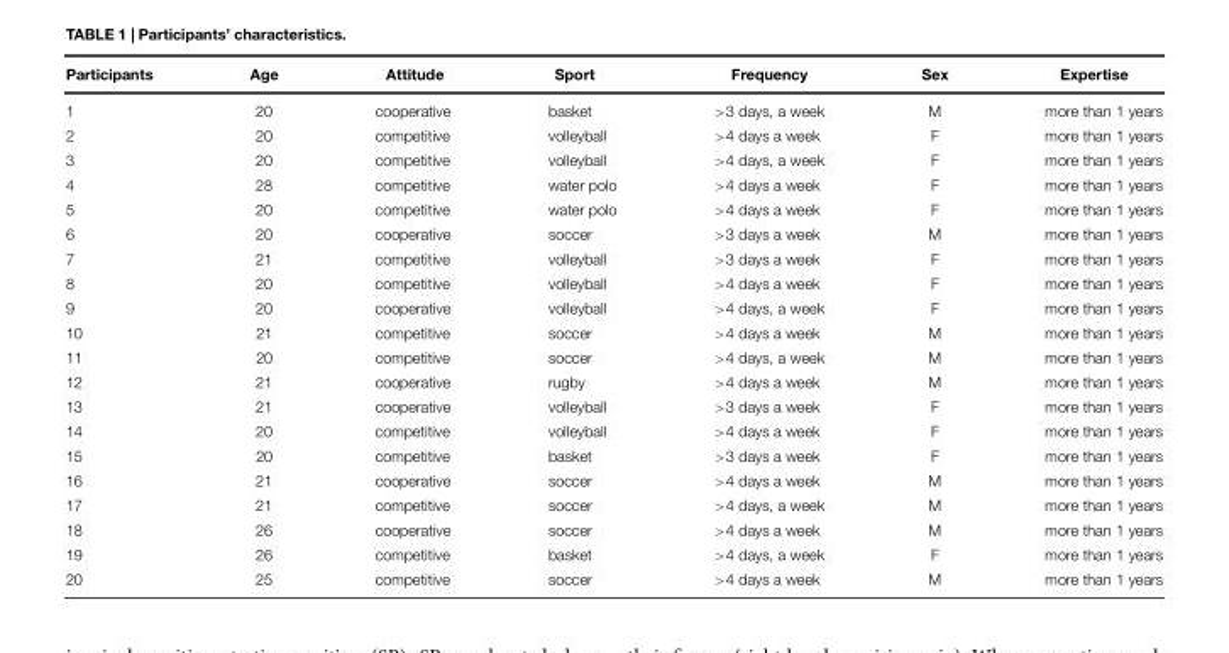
<table><thead><tr><td>Participants</td><td>Age</td><td>Attitude</td><td>Sport</td><td>Frequency</td><td>Sex</td><td>Expertise</td></tr></thead><tbody><tr><td>1</td><td>20</td><td>cooperative</td><td>basket</td><td>&gt;3 days, a week</td><td>M</td><td>more than 1 years</td></tr><tr><td>2</td><td>20</td><td>competitive</td><td>volleyball</td><td>&gt;4 days a week</td><td>F</td><td>more than 1 years</td></tr><tr><td>3</td><td>20</td><td>competitive</td><td>volleyball</td><td>&gt;4 days, a week</td><td>F</td><td>more than 1 years</td></tr><tr><td>4</td><td>28</td><td>competitive</td><td>water polo</td><td>&gt;4 days a week</td><td>F</td><td>more than 1 years</td></tr><tr><td>5</td><td>20</td><td>competitive</td><td>water polo</td><td>&gt;4 days a week</td><td>F</td><td>more than 1 years</td></tr><tr><td>6</td><td>20</td><td>cooperative</td><td>soccer</td><td>&gt;3 days a week</td><td>M</td><td>more than 1 years</td></tr><tr><td>7</td><td>21</td><td>competitive</td><td>volleyball</td><td>&gt;3 days a week</td><td>F</td><td>more than 1 years</td></tr><tr><td>8</td><td>20</td><td>competitive</td><td>volleyball</td><td>&gt;4 days a week</td><td>F</td><td>more than 1 years</td></tr><tr><td>9</td><td>20</td><td>cooperative</td><td>volleyball</td><td>&gt;4 days, a week</td><td>F</td><td>more than 1 years</td></tr><tr><td>10</td><td>21</td><td>competitive</td><td>soccer</td><td>&gt;4 days a week</td><td>M</td><td>more than 1 years</td></tr><tr><td>11</td><td>20</td><td>competitive</td><td>soccer</td><td>&gt;4 days, a week</td><td>M</td><td>more than 1 years</td></tr><tr><td>12</td><td>21</td><td>cooperative</td><td>rugby</td><td>&gt;4 days a week</td><td>M</td><td>more than 1 years</td></tr><tr><td>13</td><td>21</td><td>cooperative</td><td>volleyball</td><td>&gt;3 days a week</td><td>F</td><td>more than 1 years</td></tr><tr><td>14</td><td>20</td><td>competitive</td><td>volleyball</td><td>&gt;4 days a week</td><td>F</td><td>more than 1 years</td></tr><tr><td>15</td><td>20</td><td>competitive</td><td>basket</td><td>&gt;3 days a week</td><td>F</td><td>more than 1 years</td></tr><tr><td>16</td><td>21</td><td>cooperative</td><td>soccer</td><td>&gt;4 days a week</td><td>M</td><td>more than 1 years</td></tr><tr><td>17</td><td>21</td><td>competitive</td><td>soccer</td><td>&gt;4 days, a week</td><td>M</td><td>more than 1 years</td></tr><tr><td>18</td><td>26</td><td>cooperative</td><td>soccer</td><td>&gt;4 days a week</td><td>M</td><td>more than 1 years</td></tr><tr><td>19</td><td>26</td><td>competitive</td><td>basket</td><td>&gt;4 days, a week</td><td>F</td><td>more than 1 years</td></tr><tr><td>20</td><td>25</td><td>competitive</td><td>soccer</td><td>&gt;4 days a week</td><td>M</td><td>more than 1 years</td></tr></tbody></table>